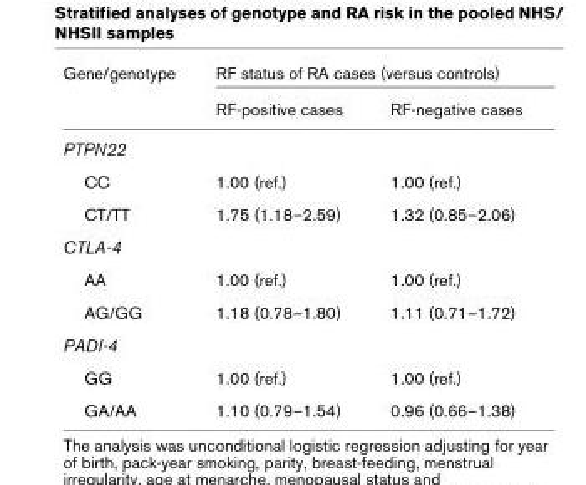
<table><thead><tr><td rowspan="2">Gene/genotype</td><td colspan="2">RF status of RA cases (versus controls)</td></tr><tr><td>RF-positive cases</td><td>RF-negative cases</td></tr></thead><tbody><tr><td colspan="3">PTPN22</td></tr><tr><td>CC</td><td>1.00 (ref.)</td><td>1.00 (ref.)</td></tr><tr><td>CT/TT</td><td>1.75 (1.18–2.59)</td><td>1.32 (0.85–2.06)</td></tr><tr><td colspan="3">CTLA-4</td></tr><tr><td>AA</td><td>1.00 (ref.)</td><td>1.00 (ref.)</td></tr><tr><td>AG/GG</td><td>1.18 (0.78–1.80)</td><td>1.11 (0.71–1.72)</td></tr><tr><td colspan="3">PADI-4</td></tr><tr><td>GG</td><td>1.00 (ref.)</td><td>1.00 (ref.)</td></tr><tr><td>GA/AA</td><td>1.10 (0.79–1.54)</td><td>0.96 (0.66–1.38)</td></tr></tbody></table>